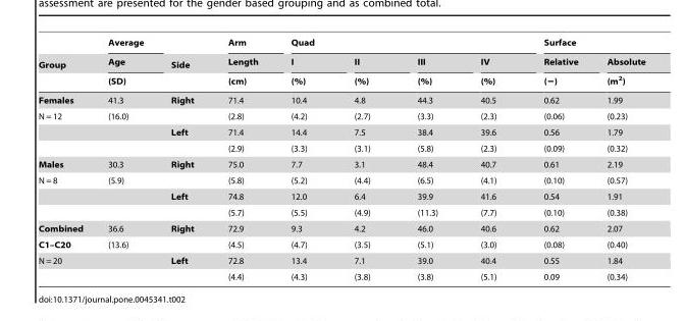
<table><thead><tr><td rowspan="3">Group</td><td rowspan="3">Average Age (SD)</td><td rowspan="3">Side</td><td rowspan="3">Arm Length (cm)</td><td colspan="4">Quad</td><td colspan="2">Surface</td></tr><tr><td rowspan="2">I (%)</td><td rowspan="2">II (%)</td><td rowspan="2">III (%)</td><td rowspan="2">IV (%)</td><td rowspan="2">Relative (−)</td><td rowspan="2">Absolute (m<sup>2</sup>)</td></tr><tr></tr></thead><tbody><tr><td>Females</td><td>41.3</td><td>Right</td><td>71.4</td><td>10.4</td><td>4.8</td><td>44.3</td><td>40.5</td><td>0.62</td><td>1.99</td></tr><tr><td rowspan="3">N = 12</td><td>(16.0)</td><td></td><td>(2.8)</td><td>(4.2)</td><td>(2.7)</td><td>(3.3)</td><td>(2.3)</td><td>(0.06)</td><td>(0.23)</td></tr><tr><td></td><td>Left</td><td>71.4</td><td>14.4</td><td>7.5</td><td>38.4</td><td>39.6</td><td>0.56</td><td>1.79</td></tr><tr><td></td><td></td><td>(2.9)</td><td>(3.3)</td><td>(3.1)</td><td>(5.8)</td><td>(2.3)</td><td>(0.09)</td><td>(0.32)</td></tr><tr><td>Males</td><td>30.3</td><td>Right</td><td>75.0</td><td>7.7</td><td>3.1</td><td>48.4</td><td>40.7</td><td>0.61</td><td>2.19</td></tr><tr><td rowspan="3">N = 8</td><td>(5.9)</td><td></td><td>(5.8)</td><td>(5.2)</td><td>(4.4)</td><td>(6.5)</td><td>(4.1)</td><td>(0.10)</td><td>(0.57)</td></tr><tr><td></td><td>Left</td><td>74.8</td><td>12.0</td><td>6.4</td><td>39.9</td><td>41.6</td><td>0.54</td><td>1.91</td></tr><tr><td></td><td></td><td>(5.7)</td><td>(5.5)</td><td>(4.9)</td><td>(11.3)</td><td>(7.7)</td><td>(0.10)</td><td>(0.38)</td></tr><tr><td>Combined</td><td>36.6</td><td>Right</td><td>72.9</td><td>9.3</td><td>4.2</td><td>46.0</td><td>40.6</td><td>0.62</td><td>2.07</td></tr><tr><td>C1–C20</td><td>(13.6)</td><td></td><td>(4.5)</td><td>(4.7)</td><td>(3.5)</td><td>(5.1)</td><td>(3.0)</td><td>(0.08)</td><td>(0.40)</td></tr><tr><td rowspan="2">N = 20</td><td></td><td>Left</td><td>72.8</td><td>13.4</td><td>7.1</td><td>39.0</td><td>40.4</td><td>0.55</td><td>1.84</td></tr><tr><td></td><td></td><td>(4.4)</td><td>(4.3)</td><td>(3.8)</td><td>(3.8)</td><td>(5.1)</td><td>0.09</td><td>(0.34)</td></tr></tbody></table>